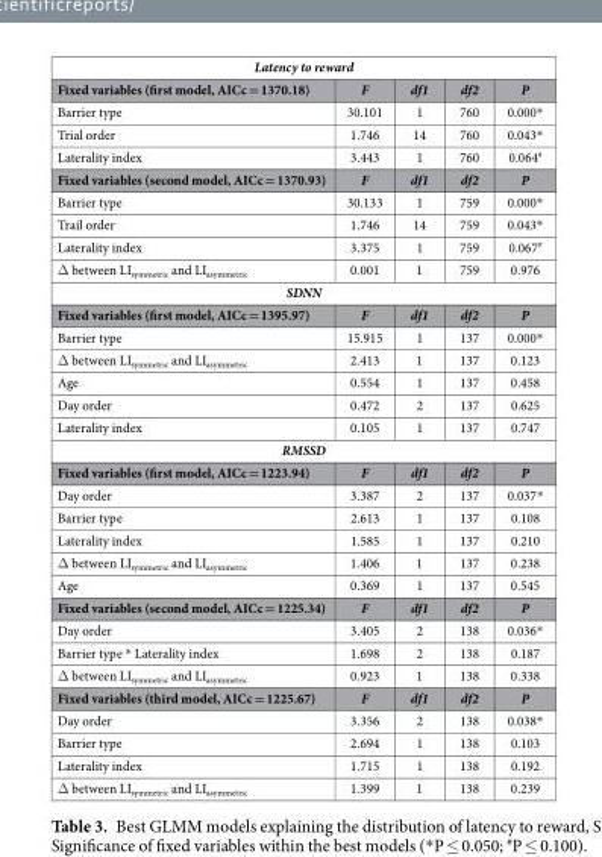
<table><thead><tr><td colspan="5">Latency to reward</td></tr><tr><td>Fixed variables (first model, AICc = 1370.18)</td><td>F</td><td>df1</td><td>df2</td><td>P</td></tr></thead><tbody><tr><td>Barrier type</td><td>30.101</td><td>1</td><td>760</td><td>0.000*</td></tr><tr><td>Trial order</td><td>1.746</td><td>14</td><td>760</td><td>0.043*</td></tr><tr><td>Laterality index</td><td>3.443</td><td>1</td><td>760</td><td>0.064<sup>#</sup></td></tr><tr><td>Fixed variables (second model, AICc = 1370.93)</td><td>F</td><td>df1</td><td>df2</td><td>P</td></tr><tr><td>Barrier type</td><td>30.133</td><td>1</td><td>759</td><td>0.000*</td></tr><tr><td>Trail order</td><td>1.746</td><td>14</td><td>759</td><td>0.043*</td></tr><tr><td>Laterality index</td><td>3.375</td><td>1</td><td>759</td><td>0.067<sup>#</sup></td></tr><tr><td>Δ between LI<sub>symmetric</sub> and LI<sub>asymmetric</sub></td><td>0.001</td><td>1</td><td>759</td><td>0.976</td></tr><tr><td colspan="5">SDNN</td></tr><tr><td>Fixed variables (first model, AICc = 1395.97)</td><td>F</td><td>df1</td><td>df2</td><td>P</td></tr><tr><td>Barrier type</td><td>15.915</td><td>1</td><td>137</td><td>0.000*</td></tr><tr><td>Δ between LI<sub>symmetric</sub> and LI<sub>asymmetric</sub></td><td>2.413</td><td>1</td><td>137</td><td>0.123</td></tr><tr><td>Age</td><td>0.554</td><td>1</td><td>137</td><td>0.458</td></tr><tr><td>Day order</td><td>0.472</td><td>2</td><td>137</td><td>0.625</td></tr><tr><td>Laterality index</td><td>0.105</td><td>1</td><td>137</td><td>0.747</td></tr><tr><td colspan="5">RMSSD</td></tr><tr><td>Fixed variables (first model, AICc = 1223.94)</td><td>F</td><td>df1</td><td>df2</td><td>P</td></tr><tr><td>Day order</td><td>3.387</td><td>2</td><td>137</td><td>0.037*</td></tr><tr><td>Barrier type</td><td>2.613</td><td>1</td><td>137</td><td>0.108</td></tr><tr><td>Laterality index</td><td>1.585</td><td>1</td><td>137</td><td>0.210</td></tr><tr><td>Δ between LI<sub>symmetric</sub> and LI<sub>asymmetric</sub></td><td>1.406</td><td>1</td><td>137</td><td>0.238</td></tr><tr><td>Age</td><td>0.369</td><td>1</td><td>137</td><td>0.545</td></tr><tr><td>Fixed variables (second model, AICc = 1225.34)</td><td>F</td><td>df1</td><td>df2</td><td>P</td></tr><tr><td>Day order</td><td>3.405</td><td>2</td><td>138</td><td>0.036*</td></tr><tr><td>Barrier type * Laterality index</td><td>1.698</td><td>2</td><td>138</td><td>0.187</td></tr><tr><td>Δ between LI<sub>symmetric</sub> and LI<sub>asymmetric</sub></td><td>0.923</td><td>1</td><td>138</td><td>0.338</td></tr><tr><td>Fixed variables (third model, AICc = 1225.67)</td><td>F</td><td>df1</td><td>df2</td><td>P</td></tr><tr><td>Day order</td><td>3.356</td><td>2</td><td>138</td><td>0.038*</td></tr><tr><td>Barrier type</td><td>2.694</td><td>1</td><td>138</td><td>0.103</td></tr><tr><td>Laterality index</td><td>1.715</td><td>1</td><td>138</td><td>0.192</td></tr><tr><td>Δ between LI<sub>symmetric</sub> and LI<sub>asymmetric</sub></td><td>1.399</td><td>1</td><td>138</td><td>0.239</td></tr></tbody></table>